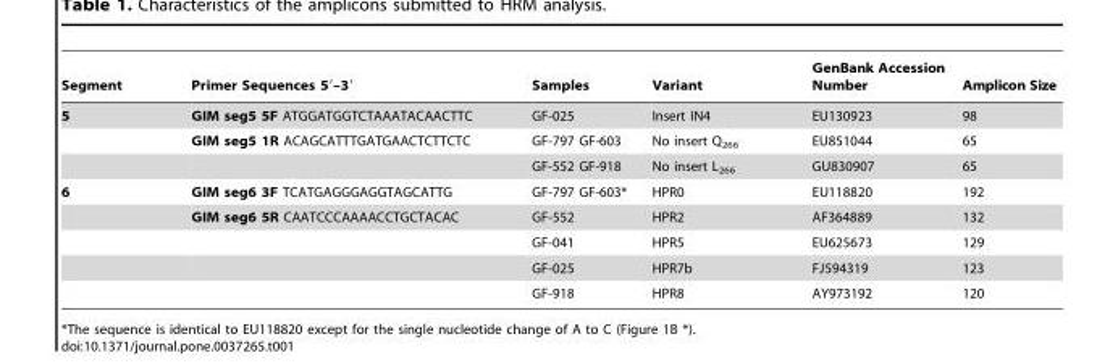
<table><thead><tr><td>Segment</td><td>Primer Sequences 5′–3′</td><td>Samples</td><td>Variant</td><td>GenBank Accession Number</td><td>Amplicon Size</td></tr></thead><tbody><tr><td rowspan="3">5</td><td>GIM seg5 5F ATGGATGGTCTAAATACAACTTC</td><td>GF-025</td><td>Insert IN4</td><td>EU130923</td><td>98</td></tr><tr><td>GIM seg5 1R ACAGCATTTGATGAACTCTTCTC</td><td>GF-797 GF-603</td><td>No insert Q<sub>266</sub></td><td>EU851044</td><td>65</td></tr><tr><td></td><td>GF-552 GF-918</td><td>No insert L<sub>266</sub></td><td>GU830907</td><td>65</td></tr><tr><td rowspan="5">6</td><td>GIM seg6 3F TCATGAGGGAGGTAGCATTG</td><td>GF-797 GF-603*</td><td>HPR0</td><td>EU118820</td><td>192</td></tr><tr><td>GIM seg6 5R CAATCCCAAAACCTGCTACAC</td><td>GF-552</td><td>HPR2</td><td>AF364889</td><td>132</td></tr><tr><td></td><td>GF-041</td><td>HPR5</td><td>EU625673</td><td>129</td></tr><tr><td></td><td>GF-025</td><td>HPR7b</td><td>FJ594319</td><td>123</td></tr><tr><td></td><td>GF-918</td><td>HPR8</td><td>AY973192</td><td>120</td></tr></tbody></table>